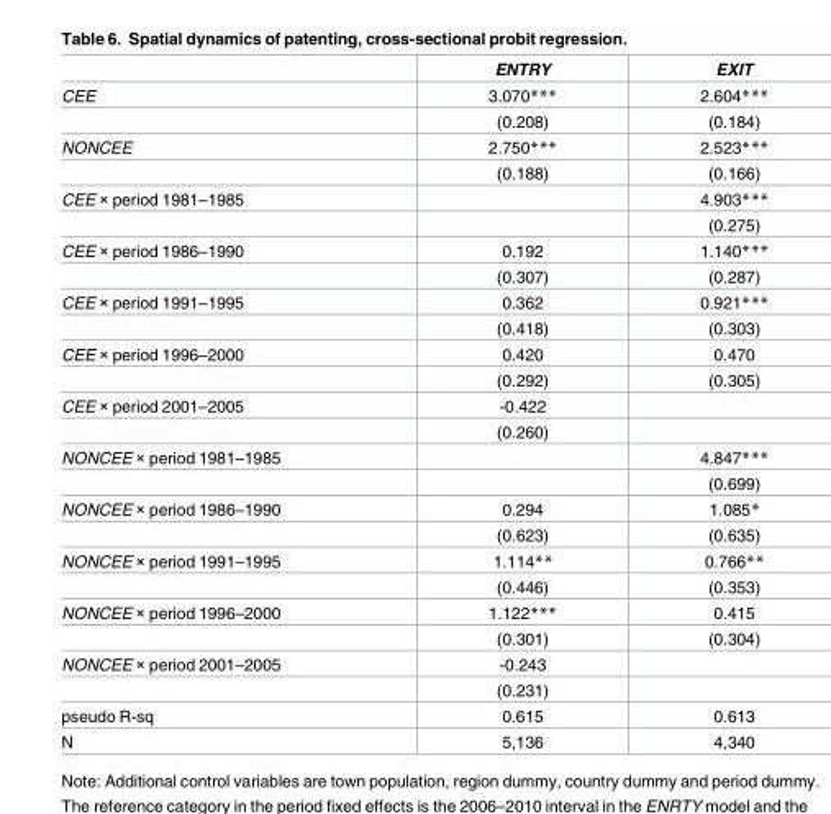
<table><thead><tr><td></td><td>ENTRY</td><td>EXIT</td></tr></thead><tbody><tr><td rowspan="2">CEE</td><td>3.070***</td><td>2.604***</td></tr><tr><td>(0.208)</td><td>(0.184)</td></tr><tr><td rowspan="2">NONCEE</td><td>2.750***</td><td>2.523***</td></tr><tr><td>(0.188)</td><td>(0.166)</td></tr><tr><td rowspan="2">CEE × period 1981–1985</td><td></td><td>4.903***</td></tr><tr><td></td><td>(0.275)</td></tr><tr><td rowspan="2">CEE × period 1986–1990</td><td>0.192</td><td>1.140***</td></tr><tr><td>(0.307)</td><td>(0.287)</td></tr><tr><td rowspan="2">CEE × period 1991–1995</td><td>0.362</td><td>0.921***</td></tr><tr><td>(0.418)</td><td>(0.303)</td></tr><tr><td rowspan="2">CEE × period 1996–2000</td><td>0.420</td><td>0.470</td></tr><tr><td>(0.292)</td><td>(0.305)</td></tr><tr><td rowspan="2">CEE × period 2001–2005</td><td>-0.422</td><td></td></tr><tr><td>(0.260)</td><td></td></tr><tr><td rowspan="2">NONCEE × period 1981–1985</td><td></td><td>4.847***</td></tr><tr><td></td><td>(0.699)</td></tr><tr><td rowspan="2">NONCEE × period 1986–1990</td><td>0.294</td><td>1.085*</td></tr><tr><td>(0.623)</td><td>(0.635)</td></tr><tr><td rowspan="2">NONCEE × period 1991–1995</td><td>1.114**</td><td>0.766**</td></tr><tr><td>(0.446)</td><td>(0.353)</td></tr><tr><td rowspan="2">NONCEE × period 1996–2000</td><td>1.122***</td><td>0.415</td></tr><tr><td>(0.301)</td><td>(0.304)</td></tr><tr><td rowspan="2">NONCEE × period 2001–2005</td><td>-0.243</td><td></td></tr><tr><td>(0.231)</td><td></td></tr><tr><td>pseudo R-sq</td><td>0.615</td><td>0.613</td></tr><tr><td>N</td><td>5,136</td><td>4,340</td></tr></tbody></table>